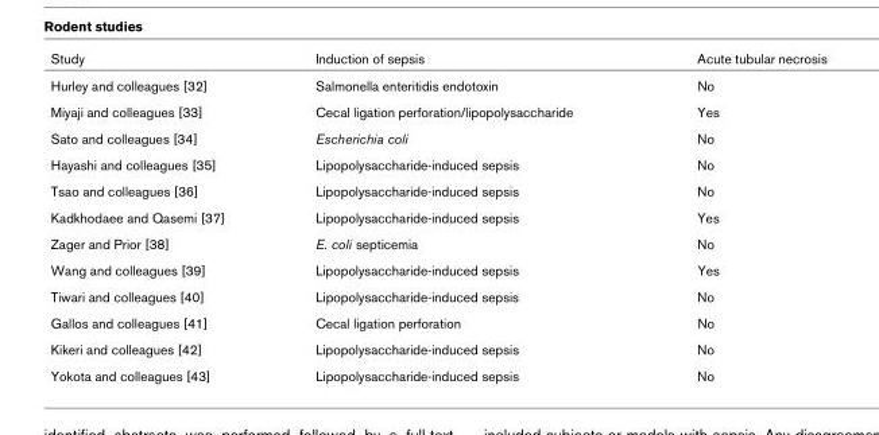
<table><thead><tr><td>Study</td><td>Induction of sepsis</td><td>Acute tubular necrosis</td></tr></thead><tbody><tr><td>Hurley and colleagues [32]</td><td>Salmonella enteritidis endotoxin</td><td>No</td></tr><tr><td>Miyaji and colleagues [33]</td><td>Cecal ligation perforation/lipopolysaccharide</td><td>Yes</td></tr><tr><td>Sato and colleagues [34]</td><td>Escherichia coli</td><td>No</td></tr><tr><td>Hayashi and colleagues [35]</td><td>Lipopolysaccharide-induced sepsis</td><td>No</td></tr><tr><td>Tsao and colleagues [36]</td><td>Lipopolysaccharide-induced sepsis</td><td>No</td></tr><tr><td>Kadkhodaee and Qasemi [37]</td><td>Lipopolysaccharide-induced sepsis</td><td>Yes</td></tr><tr><td>Zager and Prior [38]</td><td>E. coli septicemia</td><td>No</td></tr><tr><td>Wang and colleagues [39]</td><td>Lipopolysaccharide-induced sepsis</td><td>Yes</td></tr><tr><td>Tiwari and colleagues [40]</td><td>Lipopolysaccharide-induced sepsis</td><td>No</td></tr><tr><td>Gallos and colleagues [41]</td><td>Cecal ligation perforation</td><td>No</td></tr><tr><td>Kikeri and colleagues [42]</td><td>Lipopolysaccharide-induced sepsis</td><td>No</td></tr><tr><td>Yokota and colleagues [43]</td><td>Lipopolysaccharide-induced sepsis</td><td>No</td></tr></tbody></table>